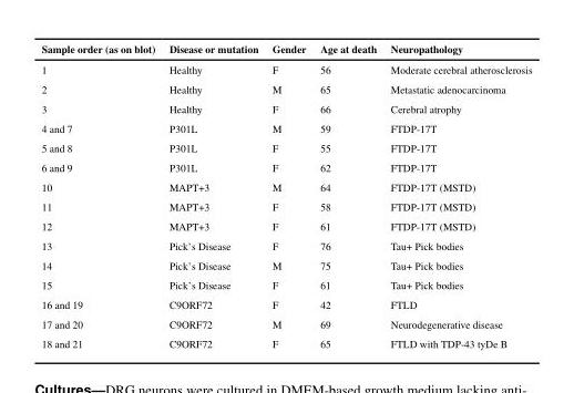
<table><thead><tr><td>Sample order (as on blot)</td><td>Disease or mutation</td><td>Gender</td><td>Age at death</td><td>Neuropathology</td></tr></thead><tbody><tr><td>1</td><td>Healthy</td><td>F</td><td>56</td><td>Moderate cerebral atherosclerosis</td></tr><tr><td>2</td><td>Healthy</td><td>M</td><td>65</td><td>Metastatic adenocarcinoma</td></tr><tr><td>3</td><td>Healthy</td><td>F</td><td>66</td><td>Cerebral atrophy</td></tr><tr><td>4 and 7</td><td>P301L</td><td>M</td><td>59</td><td>FTDP-17T</td></tr><tr><td>5 and 8</td><td>P301L</td><td>F</td><td>55</td><td>FTDP-17T</td></tr><tr><td>6 and 9</td><td>P301L</td><td>F</td><td>62</td><td>FTDP-17T</td></tr><tr><td>10</td><td>MAPT+3</td><td>M</td><td>64</td><td>FTDP-17T (MSTD)</td></tr><tr><td>11</td><td>MAPT+3</td><td>F</td><td>58</td><td>FTDP-17T (MSTD)</td></tr><tr><td>12</td><td>MAPT+3</td><td>F</td><td>61</td><td>FTDP-17T (MSTD)</td></tr><tr><td>13</td><td>Pick’s Disease</td><td>F</td><td>76</td><td>Tau+ Pick bodies</td></tr><tr><td>14</td><td>Pick’s Disease</td><td>M</td><td>75</td><td>Tau+ Pick bodies</td></tr><tr><td>15</td><td>Pick’s Disease</td><td>F</td><td>61</td><td>Tau+ Pick bodies</td></tr><tr><td>16 and 19</td><td>C9ORF72</td><td>F</td><td>42</td><td>FTLD</td></tr><tr><td>17 and 20</td><td>C9ORF72</td><td>M</td><td>69</td><td>Neurodegenerative disease</td></tr><tr><td>18 and 21</td><td>C9ORF72</td><td>F</td><td>65</td><td>FTLD with TDP-43 tyDe B</td></tr></tbody></table>